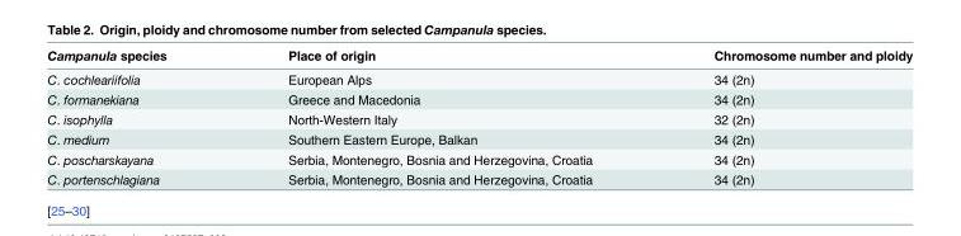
<table><thead><tr><td>Campanula species</td><td>Place of origin</td><td>Chromosome number and ploidy</td></tr></thead><tbody><tr><td>C. cochleariifolia</td><td>European Alps</td><td>34 (2n)</td></tr><tr><td>C. formanekiana</td><td>Greece and Macedonia</td><td>34 (2n)</td></tr><tr><td>C. isophylla</td><td>North-Western Italy</td><td>32 (2n)</td></tr><tr><td>C. medium</td><td>Southern Eastern Europe, Balkan</td><td>34 (2n)</td></tr><tr><td>C. poscharskayana</td><td>Serbia, Montenegro, Bosnia and Herzegovina, Croatia</td><td>34 (2n)</td></tr><tr><td>C. portenschlagiana</td><td>Serbia, Montenegro, Bosnia and Herzegovina, Croatia</td><td>34 (2n)</td></tr></tbody></table>